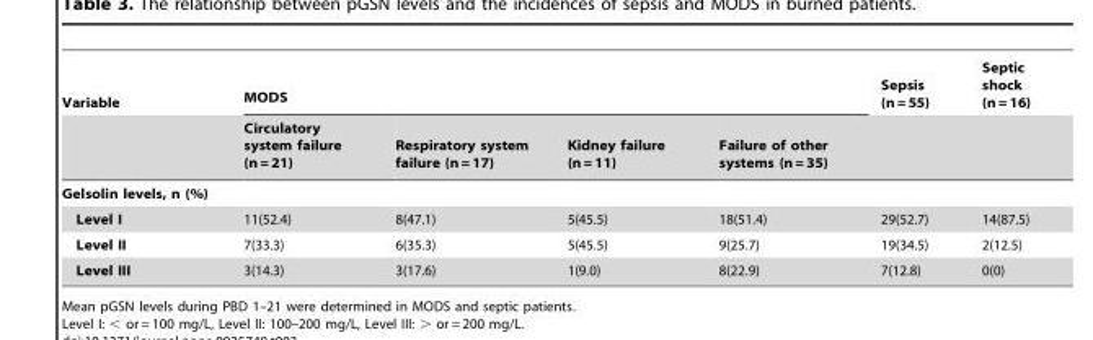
<table><thead><tr><td rowspan="2">Variable</td><td colspan="4">MODS</td><td rowspan="2">Sepsis (n = 55)</td><td rowspan="2">Septic shock (n = 16)</td></tr><tr><td>Circulatory system failure (n = 21)</td><td>Respiratory system failure (n = 17)</td><td>Kidney failure (n = 11)</td><td>Failure of other systems (n = 35)</td></tr></thead><tbody><tr><td colspan="7">Gelsolin levels, n (%)</td></tr><tr><td>Level I</td><td>11(52.4)</td><td>8(47.1)</td><td>5(45.5)</td><td>18(51.4)</td><td>29(52.7)</td><td>14(87.5)</td></tr><tr><td>Level II</td><td>7(33.3)</td><td>6(35.3)</td><td>5(45.5)</td><td>9(25.7)</td><td>19(34.5)</td><td>2(12.5)</td></tr><tr><td>Level III</td><td>3(14.3)</td><td>3(17.6)</td><td>1(9.0)</td><td>8(22.9)</td><td>7(12.8)</td><td>0(0)</td></tr></tbody></table>